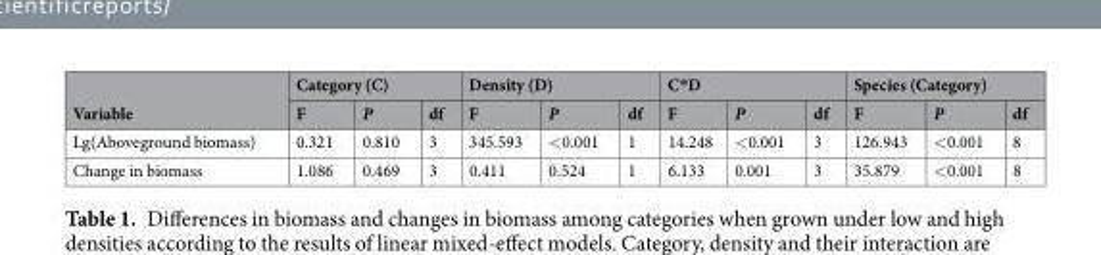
<table><thead><tr><td rowspan="2">Variable</td><td colspan="3">Category (C)</td><td colspan="3">Density (D)</td><td colspan="3">C*D</td><td colspan="3">Species (Category)</td></tr><tr><td>F</td><td>P</td><td>df</td><td>F</td><td>P</td><td>df</td><td>F</td><td>P</td><td>df</td><td>F</td><td>P</td><td>df</td></tr></thead><tbody><tr><td>Lg(Aboveground biomass)</td><td>0.321</td><td>0.810</td><td>3</td><td>345.593</td><td>&lt;0.001</td><td>1</td><td>14.248</td><td>&lt;0.001</td><td>3</td><td>126.943</td><td>&lt;0.001</td><td>8</td></tr><tr><td>Change in biomass</td><td>1.086</td><td>0.469</td><td>3</td><td>0.411</td><td>0.524</td><td>1</td><td>6.133</td><td>0.001</td><td>3</td><td>35.879</td><td>&lt;0.001</td><td>8</td></tr></tbody></table>